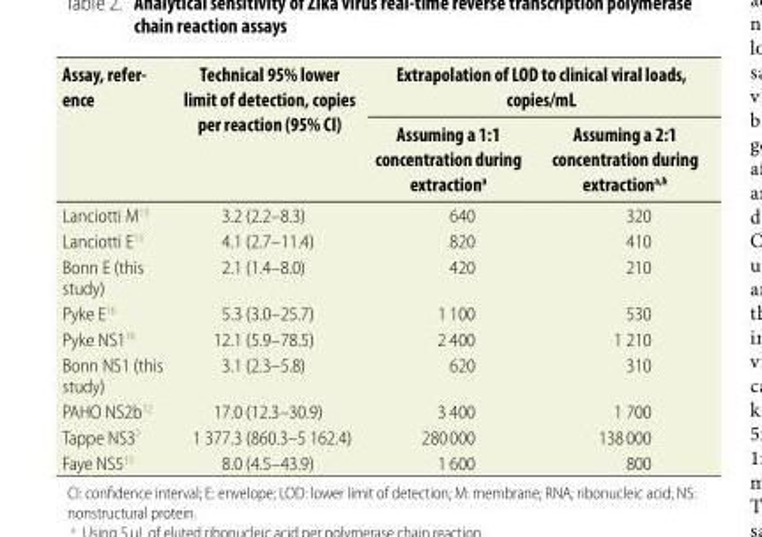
<table><thead><tr><td rowspan="2">Assay, refer- ence</td><td rowspan="2">Technical 95% lower limit of detection, copies per reaction (95% CI)</td><td colspan="2">Extrapolation of LOD to clinical viral loads, copies/mL</td></tr><tr><td>Assuming a 1:1 concentration during extraction<sup>a</sup></td><td>Assuming a 2:1 concentration during extraction<sup>a,b</sup></td></tr></thead><tbody><tr><td>Lanciotti M<sup>13</sup></td><td>3.2 (2.2–8.3)</td><td>640</td><td>320</td></tr><tr><td>Lanciotti E<sup>13</sup></td><td>4.1 (2.7–11.4)</td><td>820</td><td>410</td></tr><tr><td>Bonn E (this study)</td><td>2.1 (1.4–8.0)</td><td>420</td><td>210</td></tr><tr><td>Pyke E<sup>16</sup></td><td>5.3 (3.0–25.7)</td><td>1 100</td><td>530</td></tr><tr><td>Pyke NS1<sup>16</sup></td><td>12.1 (5.9–78.5)</td><td>2 400</td><td>1 210</td></tr><tr><td>Bonn NS1 (this study)</td><td>3.1 (2.3–5.8)</td><td>620</td><td>310</td></tr><tr><td>PAHO NS2b<sup>12</sup></td><td>17.0 (12.3–30.9)</td><td>3 400</td><td>1 700</td></tr><tr><td>Tappe NS3<sup>7</sup></td><td>1 377.3 (860.3–5 162.4)</td><td>280 000</td><td>138 000</td></tr><tr><td>Faye NS5<sup>15</sup></td><td>8.0 (4.5–43.9)</td><td>1 600</td><td>800</td></tr></tbody></table>